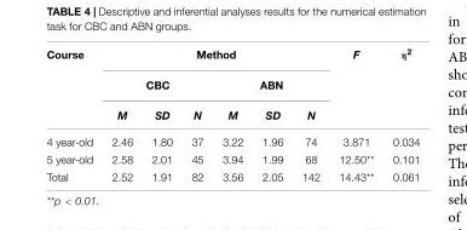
<table><thead><tr><td rowspan="3">Course</td><td colspan="6">Method</td><td rowspan="3">F</td><td rowspan="3">η<sup>2</sup></td></tr><tr><td colspan="3">CBC</td><td colspan="3">ABN</td></tr><tr><td>M</td><td>SD</td><td>N</td><td>M</td><td>SD</td><td>N</td></tr></thead><tbody><tr><td>4 year-old</td><td>2.46</td><td>1.80</td><td>37</td><td>3.22</td><td>1.96</td><td>74</td><td>3.871</td><td>0.034</td></tr><tr><td>5 year-old</td><td>2.58</td><td>2.01</td><td>45</td><td>3.94</td><td>1.99</td><td>68</td><td>12.50**</td><td>0.101</td></tr><tr><td>Total</td><td>2.52</td><td>1.91</td><td>82</td><td>3.56</td><td>2.05</td><td>142</td><td>14.43**</td><td>0.061</td></tr></tbody></table>